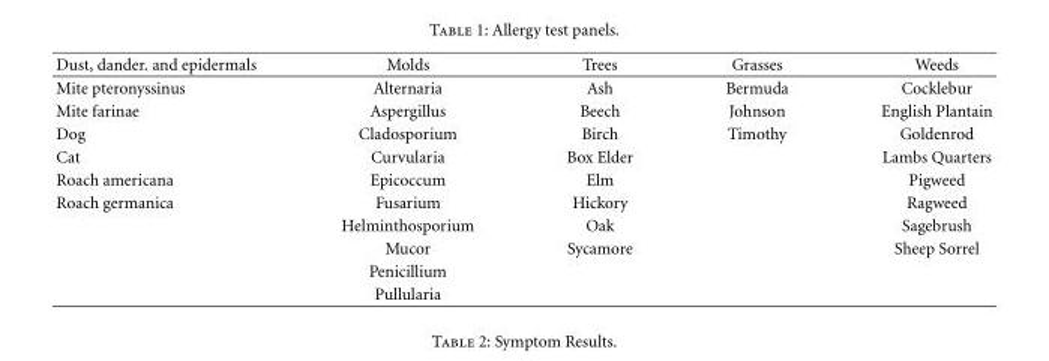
<table><thead><tr><td>Dust, dander. and epidermals</td><td>Molds</td><td>Trees</td><td>Grasses</td><td>Weeds</td></tr></thead><tbody><tr><td>Mite pteronyssinus</td><td>Alternaria</td><td>Ash</td><td>Bermuda</td><td>Cocklebur</td></tr><tr><td>Mite farinae</td><td>Aspergillus</td><td>Beech</td><td>Johnson</td><td>English Plantain</td></tr><tr><td>Dog</td><td>Cladosporium</td><td>Birch</td><td>Timothy</td><td>Goldenrod</td></tr><tr><td>Cat</td><td>Curvularia</td><td>Box Elder</td><td></td><td>Lambs Quarters</td></tr><tr><td>Roach americana</td><td>Epicoccum</td><td>Elm</td><td></td><td>Pigweed</td></tr><tr><td rowspan="5">Roach germanica</td><td>Fusarium</td><td>Hickory</td><td></td><td>Ragweed</td></tr><tr><td>Helminthosporium</td><td>Oak</td><td></td><td>Sagebrush</td></tr><tr><td>Mucor</td><td>Sycamore</td><td></td><td>Sheep Sorrel</td></tr><tr><td>Penicillium</td><td></td><td></td><td></td></tr><tr><td>Pullularia</td><td></td><td></td><td></td></tr></tbody></table>